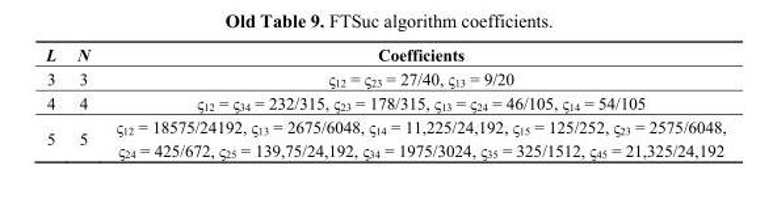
<table><thead><tr><td>L</td><td>N</td><td>Coefficients</td></tr></thead><tbody><tr><td>3</td><td>3</td><td>ς<sub>12</sub> = ς<sub>23</sub> = 27/40, ς<sub>13</sub> = 9/20</td></tr><tr><td>4</td><td>4</td><td>ς<sub>12</sub> = ς<sub>34</sub> = 232/315, ς<sub>23</sub> = 178/315, ς<sub>13</sub> = ς<sub>24</sub> = 46/105, ς<sub>14</sub> = 54/105</td></tr><tr><td>5</td><td>5</td><td>ς<sub>12</sub> = 18575/24192, ς<sub>13</sub> = 2675/6048, ς<sub>14</sub> = 11,225/24,192, ς<sub>15</sub> = 125/252, ς<sub>23</sub> = 2575/6048, ς<sub>24</sub> = 425/672, ς<sub>25</sub> = 139,75/24,192, ς<sub>34</sub> = 1975/3024, ς<sub>35</sub> = 325/1512, ς<sub>45</sub> = 21,325/24,192</td></tr></tbody></table>